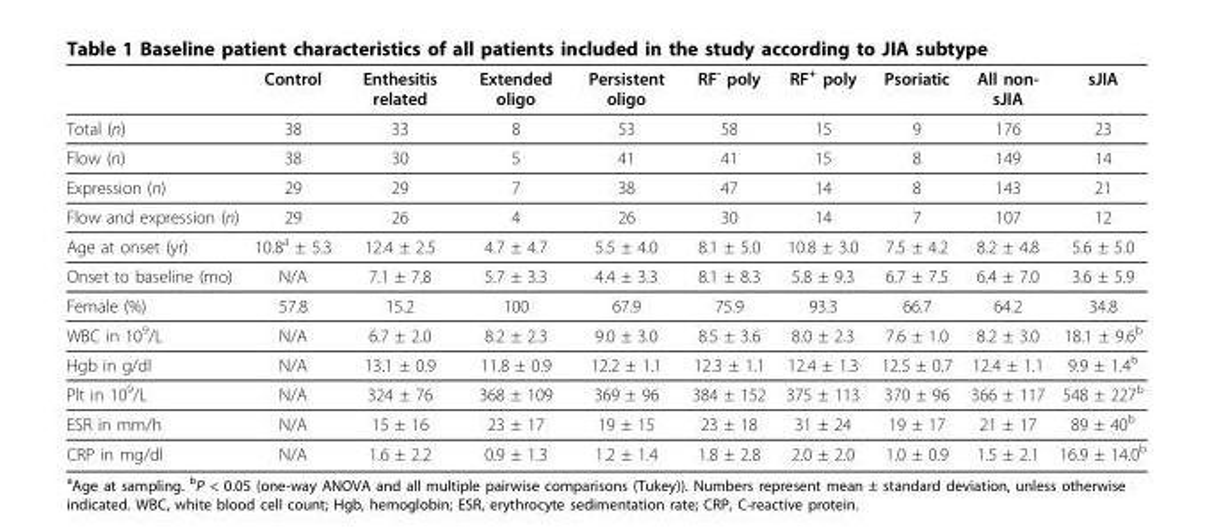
<table><thead><tr><td></td><td>Control</td><td>Enthesitis related</td><td>Extended oligo</td><td>Persistent oligo</td><td>RF<sup>-</sup> poly</td><td>RF<sup>+</sup> poly</td><td>Psoriatic</td><td>All non- sJIA</td><td>sJIA</td></tr></thead><tbody><tr><td>Total (n)</td><td>38</td><td>33</td><td>8</td><td>53</td><td>58</td><td>15</td><td>9</td><td>176</td><td>23</td></tr><tr><td>Flow (n)</td><td>38</td><td>30</td><td>5</td><td>41</td><td>41</td><td>15</td><td>8</td><td>149</td><td>14</td></tr><tr><td>Expression (n)</td><td>29</td><td>29</td><td>7</td><td>38</td><td>47</td><td>14</td><td>8</td><td>143</td><td>21</td></tr><tr><td>Flow and expression (n)</td><td>29</td><td>26</td><td>4</td><td>26</td><td>30</td><td>14</td><td>7</td><td>107</td><td>12</td></tr><tr><td>Age at onset (yr)</td><td>10.8<sup>a</sup> ± 5.3</td><td>12.4 ± 2.5</td><td>4.7 ± 4.7</td><td>5.5 ± 4.0</td><td>8.1 ± 5.0</td><td>10.8 ± 3.0</td><td>7.5 ± 4.2</td><td>8.2 ± 4.8</td><td>5.6 ± 5.0</td></tr><tr><td>Onset to baseline (mo)</td><td>N/A</td><td>7.1 ± 7.8</td><td>5.7 ± 3.3</td><td>4.4 ± 3.3</td><td>8.1 ± 8.3</td><td>5.8 ± 9.3</td><td>6.7 ± 7.5</td><td>6.4 ± 7.0</td><td>3.6 ± 5.9</td></tr><tr><td>Female (%)</td><td>57.8</td><td>15.2</td><td>100</td><td>67.9</td><td>75.9</td><td>93.3</td><td>66.7</td><td>64.2</td><td>34.8</td></tr><tr><td>WBC in 10<sup>9</sup>/L</td><td>N/A</td><td>6.7 ± 2.0</td><td>8.2 ± 2.3</td><td>9.0 ± 3.0</td><td>8.5 ± 3.6</td><td>8.0 ± 2.3</td><td>7.6 ± 1.0</td><td>8.2 ± 3.0</td><td>18.1 ± 9.6<sup>b</sup></td></tr><tr><td>Hgb in g/dl</td><td>N/A</td><td>13.1 ± 0.9</td><td>11.8 ± 0.9</td><td>12.2 ± 1.1</td><td>12.3 ± 1.1</td><td>12.4 ± 1.3</td><td>12.5 ± 0.7</td><td>12.4 ± 1.1</td><td>9.9 ± 1.4<sup>b</sup></td></tr><tr><td>Plt in 10<sup>9</sup>/L</td><td>N/A</td><td>324 ± 76</td><td>368 ± 109</td><td>369 ± 96</td><td>384 ± 152</td><td>375 ± 113</td><td>370 ± 96</td><td>366 ± 117</td><td>548 ± 227<sup>b</sup></td></tr><tr><td>ESR in mm/h</td><td>N/A</td><td>15 ± 16</td><td>23 ± 17</td><td>19 ± 15</td><td>23 ± 18</td><td>31 ± 24</td><td>19 ± 17</td><td>21 ± 17</td><td>89 ± 40<sup>b</sup></td></tr><tr><td>CRP in mg/dl</td><td>N/A</td><td>1.6 ± 2.2</td><td>0.9 ± 1.3</td><td>1.2 ± 1.4</td><td>1.8 ± 2.8</td><td>2.0 ± 2.0</td><td>1.0 ± 0.9</td><td>1.5 ± 2.1</td><td>16.9 ± 14.0<sup>b</sup></td></tr></tbody></table>